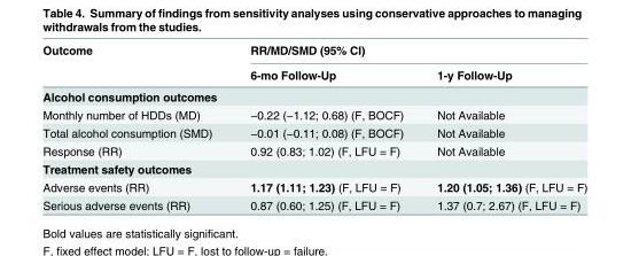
<table><thead><tr><td rowspan="2">Outcome</td><td colspan="2">RR/MD/SMD (95% CI)</td></tr><tr><td>6-mo Follow-Up</td><td>1-y Follow-Up</td></tr></thead><tbody><tr><td colspan="3">Alcohol consumption outcomes</td></tr><tr><td>Monthly number of HDDs (MD)</td><td>−0.22 (−1.12; 0.68) (F, BOCF)</td><td>Not Available</td></tr><tr><td>Total alcohol consumption (SMD)</td><td>−0.01 (−0.11; 0.08) (F, BOCF)</td><td>Not Available</td></tr><tr><td>Response (RR)</td><td>0.92 (0.83; 1.02) (F, LFU = F)</td><td>Not Available</td></tr><tr><td colspan="3">Treatment safety outcomes</td></tr><tr><td>Adverse events (RR)</td><td>1.17 (1.11; 1.23) (F, LFU = F)</td><td>1.20 (1.05; 1.36) (F, LFU = F)</td></tr><tr><td>Serious adverse events (RR)</td><td>0.87 (0.60; 1.25) (F, LFU = F)</td><td>1.37 (0.7; 2.67) (F, LFU = F)</td></tr></tbody></table>